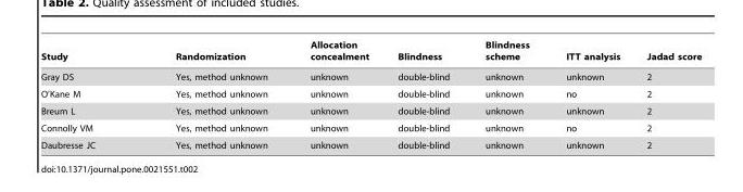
<table><thead><tr><td>Study</td><td>Randomization</td><td>Allocation concealment</td><td>Blindness</td><td>Blindness scheme</td><td>ITT analysis</td><td>Jadad score</td></tr></thead><tbody><tr><td>Gray DS</td><td>Yes, method unknown</td><td>unknown</td><td>double-blind</td><td>unknown</td><td>unknown</td><td>2</td></tr><tr><td>O’Kane M</td><td>Yes, method unknown</td><td>unknown</td><td>double-blind</td><td>unknown</td><td>no</td><td>2</td></tr><tr><td>Breum L</td><td>Yes, method unknown</td><td>unknown</td><td>double-blind</td><td>unknown</td><td>unknown</td><td>2</td></tr><tr><td>Connolly VM</td><td>Yes, method unknown</td><td>unknown</td><td>double-blind</td><td>unknown</td><td>no</td><td>2</td></tr><tr><td>Daubresse JC</td><td>Yes, method unknown</td><td>unknown</td><td>double-blind</td><td>unknown</td><td>unknown</td><td>2</td></tr></tbody></table>